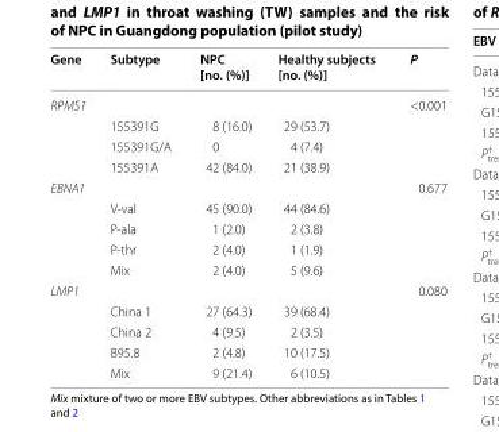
<table><thead><tr><td>Gene</td><td>Subtype</td><td>NPC [no. (%)]</td><td>Healthy subjects [no. (%)]</td><td>P</td></tr></thead><tbody><tr><td colspan="4">RPMS1</td><td>&lt;0.001</td></tr><tr><td></td><td>155391G</td><td>8 (16.0)</td><td>29 (53.7)</td><td></td></tr><tr><td></td><td>155391G/A</td><td>0</td><td>4 (7.4)</td><td></td></tr><tr><td></td><td>155391A</td><td>42 (84.0)</td><td>21 (38.9)</td><td></td></tr><tr><td colspan="4">EBNA1</td><td>0.677</td></tr><tr><td></td><td>V‑val</td><td>45 (90.0)</td><td>44 (84.6)</td><td></td></tr><tr><td></td><td>P‑ala</td><td>1 (2.0)</td><td>2 (3.8)</td><td></td></tr><tr><td></td><td>P‑thr</td><td>2 (4.0)</td><td>1 (1.9)</td><td></td></tr><tr><td></td><td>Mix</td><td>2 (4.0)</td><td>5 (9.6)</td><td></td></tr><tr><td colspan="4">LMP1</td><td>0.080</td></tr><tr><td></td><td>China 1</td><td>27 (64.3)</td><td>39 (68.4)</td><td></td></tr><tr><td></td><td>China 2</td><td>4 (9.5)</td><td>2 (3.5)</td><td></td></tr><tr><td></td><td>B95.8</td><td>2 (4.8)</td><td>10 (17.5)</td><td></td></tr><tr><td></td><td>Mix</td><td>9 (21.4)</td><td>6 (10.5)</td><td></td></tr></tbody></table>